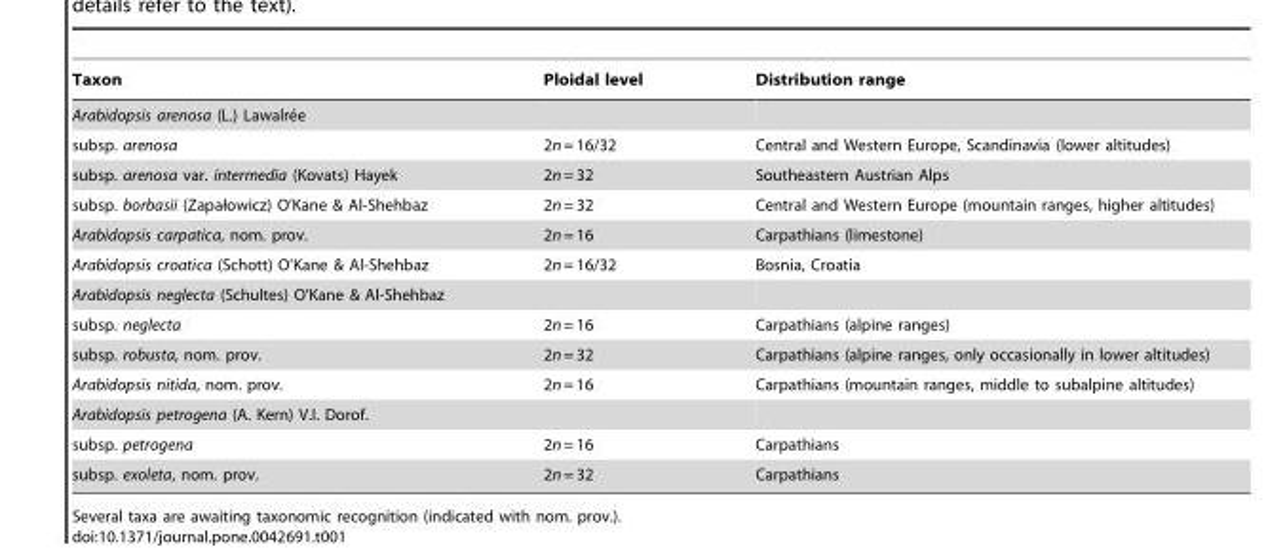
<table><thead><tr><td>Taxon</td><td>Ploidal level</td><td>Distribution range</td></tr></thead><tbody><tr><td colspan="3">Arabidopsis arenosa (L.) Lawalre´e</td></tr><tr><td>subsp. arenosa</td><td>2n = 16/32</td><td>Central and Western Europe, Scandinavia (lower altitudes)</td></tr><tr><td>subsp. arenosa var. intermedia (Kovats) Hayek</td><td>2n = 32</td><td>Southeastern Austrian Alps</td></tr><tr><td>subsp. borbasii (Zapałowicz) O’Kane &amp; Al-Shehbaz</td><td>2n = 32</td><td>Central and Western Europe (mountain ranges, higher altitudes)</td></tr><tr><td>Arabidopsis carpatica, nom. prov.</td><td>2n = 16</td><td>Carpathians (limestone)</td></tr><tr><td>Arabidopsis croatica (Schott) O’Kane &amp; Al-Shehbaz</td><td>2n = 16/32</td><td>Bosnia, Croatia</td></tr><tr><td colspan="3">Arabidopsis neglecta (Schultes) O’Kane &amp; Al-Shehbaz</td></tr><tr><td>subsp. neglecta</td><td>2n = 16</td><td>Carpathians (alpine ranges)</td></tr><tr><td>subsp. robusta, nom. prov.</td><td>2n = 32</td><td>Carpathians (alpine ranges, only occasionally in lower altitudes)</td></tr><tr><td>Arabidopsis nitida, nom. prov.</td><td>2n = 16</td><td>Carpathians (mountain ranges, middle to subalpine altitudes)</td></tr><tr><td colspan="3">Arabidopsis petrogena (A. Kern) V.I. Dorof.</td></tr><tr><td>subsp. petrogena</td><td>2n = 16</td><td>Carpathians</td></tr><tr><td>subsp. exoleta, nom. prov.</td><td>2n = 32</td><td>Carpathians</td></tr></tbody></table>